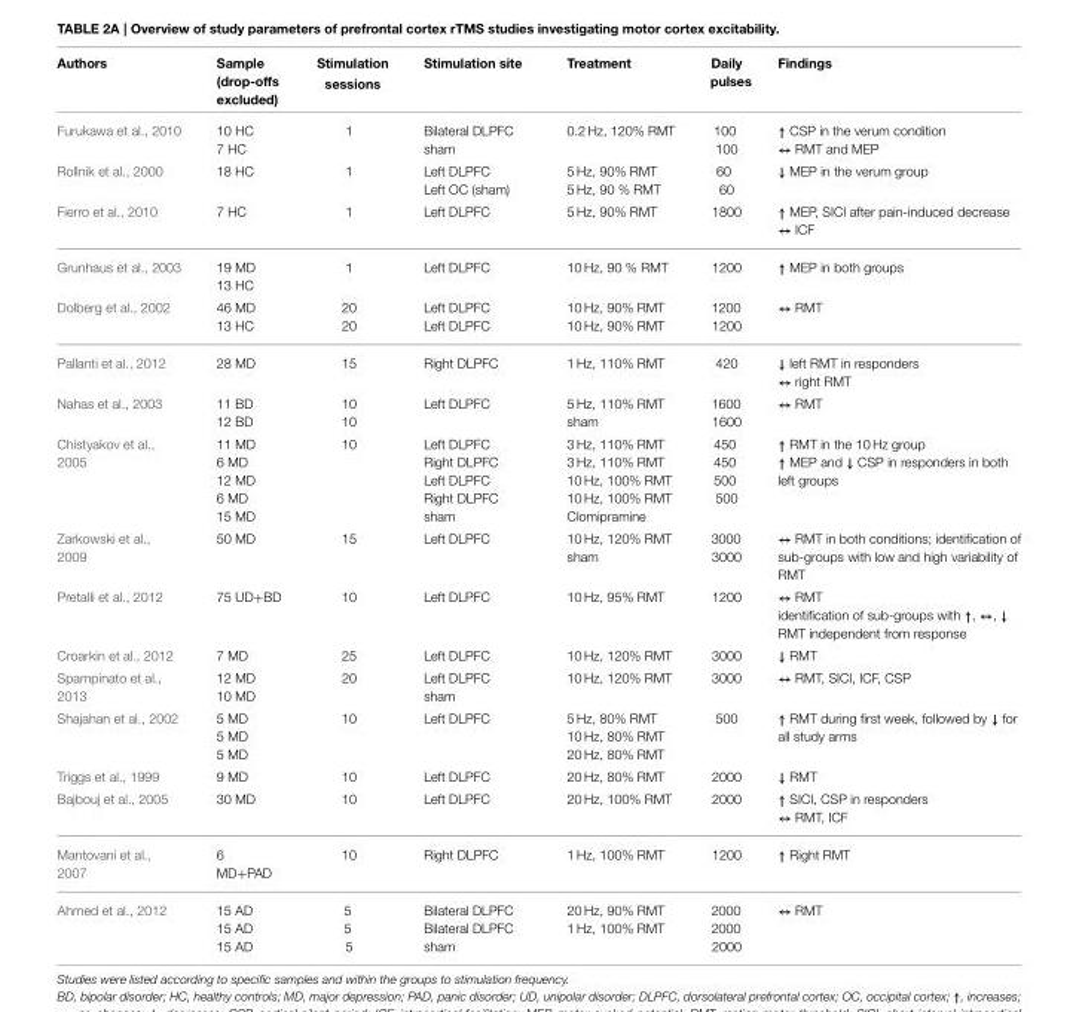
<table><thead><tr><td>Authors</td><td>Sample (drop-offs excluded)</td><td>Stimulation sessions</td><td>Stimulation site</td><td>Treatment</td><td>Daily pulses</td><td>Findings</td></tr></thead><tbody><tr><td>Furukawa et al., 2010</td><td>10 HC 7 HC</td><td>1</td><td>Bilateral DLPFC sham</td><td>0.2 Hz, 120% RMT</td><td>100 100</td><td>↑ CSP in the verum condition ↔ RMT and MEP</td></tr><tr><td>Rollnik et al., 2000</td><td>18 HC</td><td>1</td><td>Left DLPFC Left OC (sham)</td><td>5 Hz, 90% RMT 5 Hz, 90 % RMT</td><td>60 60</td><td>↓ MEP in the verum group</td></tr><tr><td>Fierro et al., 2010</td><td>7 HC</td><td>1</td><td>Left DLPFC</td><td>5 Hz, 90% RMT</td><td>1800</td><td>↑ MEP, SICI after pain-induced decrease ↔ ICF</td></tr><tr><td>Grunhaus et al., 2003</td><td>19 MD 13 HC</td><td>1</td><td>Left DLPFC</td><td>10 Hz, 90 % RMT</td><td>1200</td><td>↑ MEP in both groups</td></tr><tr><td>Dolberg et al., 2002</td><td>46 MD 13 HC</td><td>20 20</td><td>Left DLPFC Left DLPFC</td><td>10 Hz, 90% RMT 10 Hz, 90% RMT</td><td>1200 1200</td><td>↔ RMT</td></tr><tr><td>Pallanti et al., 2012</td><td>28 MD</td><td>15</td><td>Right DLPFC</td><td>1 Hz, 110% RMT</td><td>420</td><td>↓ left RMT in responders ↔ right RMT</td></tr><tr><td>Nahas et al., 2003</td><td>11 BD 12 BD</td><td>10 10</td><td>Left DLPFC</td><td>5 Hz, 110% RMT sham</td><td>1600 1600</td><td>↔ RMT</td></tr><tr><td>Chistyakov et al., 2005</td><td>11 MD 6 MD 12 MD 6 MD 15 MD</td><td>10</td><td>Left DLPFC Right DLPFC Left DLPFC Right DLPFC sham</td><td>3 Hz, 110% RMT 3 Hz, 110% RMT 10 Hz, 100% RMT 10 Hz, 100% RMT Clomipramine</td><td>450 450 500 500</td><td>↑ RMT in the 10 Hz group ↑ MEP and ↓ CSP in responders in both left groups</td></tr><tr><td>Zarkowski et al., 2009</td><td>50 MD</td><td>15</td><td>Left DLPFC</td><td>10 Hz, 120% RMT sham</td><td>3000 3000</td><td>↔ RMT in both conditions; identification of sub-groups with low and high variability of RMT</td></tr><tr><td>Pretalli et al., 2012</td><td>75 UD+BD</td><td>10</td><td>Left DLPFC</td><td>10 Hz, 95% RMT</td><td>1200</td><td>↔ RMT identification of sub-groups with ↑, ↔, ↓ RMT independent from response</td></tr><tr><td>Croarkin et al., 2012</td><td>7 MD</td><td>25</td><td>Left DLPFC</td><td>10 Hz, 120% RMT</td><td>3000</td><td>↓ RMT</td></tr><tr><td>Spampinato et al., 2013</td><td>12 MD 10 MD</td><td>20</td><td>Left DLPFC sham</td><td>10 Hz, 120% RMT</td><td>3000</td><td>↔ RMT, SICI, ICF, CSP</td></tr><tr><td>Shajahan et al., 2002</td><td>5 MD 5 MD 5 MD</td><td>10</td><td>Left DLPFC</td><td>5 Hz, 80% RMT 10 Hz, 80% RMT 20 Hz, 80% RMT</td><td>500</td><td>↑ RMT during first week, followed by ↓ for all study arms</td></tr><tr><td>Triggs et al., 1999</td><td>9 MD</td><td>10</td><td>Left DLPFC</td><td>20 Hz, 80% RMT</td><td>2000</td><td>↓ RMT</td></tr><tr><td>Bajbouj et al., 2005</td><td>30 MD</td><td>10</td><td>Left DLPFC</td><td>20 Hz, 100% RMT</td><td>2000</td><td>↑ SICI, CSP in responders ↔ RMT, ICF</td></tr><tr><td>Mantovani et al., 2007</td><td>6 MD+PAD</td><td>10</td><td>Right DLPFC</td><td>1 Hz, 100% RMT</td><td>1200</td><td>↑ Right RMT</td></tr><tr><td>Ahmed et al., 2012</td><td>15 AD 15 AD 15 AD</td><td>5 5 5</td><td>Bilateral DLPFC Bilateral DLPFC sham</td><td>20 Hz, 90% RMT 1 Hz, 100% RMT</td><td>2000 2000 2000</td><td>↔ RMT</td></tr></tbody></table>